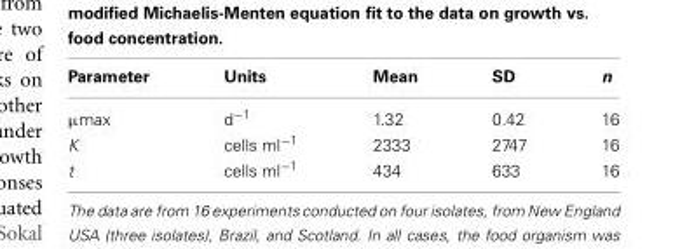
<table><thead><tr><td>Parameter</td><td>Units</td><td>Mean</td><td>SD</td><td>n</td></tr></thead><tbody><tr><td>µmax</td><td>d<sup>−1</sup></td><td>1.32</td><td>0.42</td><td>16</td></tr><tr><td>K</td><td>cells ml<sup>−1</sup></td><td>2333</td><td>2747</td><td>16</td></tr><tr><td>t</td><td>cells ml<sup>−1</sup></td><td>434</td><td>633</td><td>16</td></tr></tbody></table>